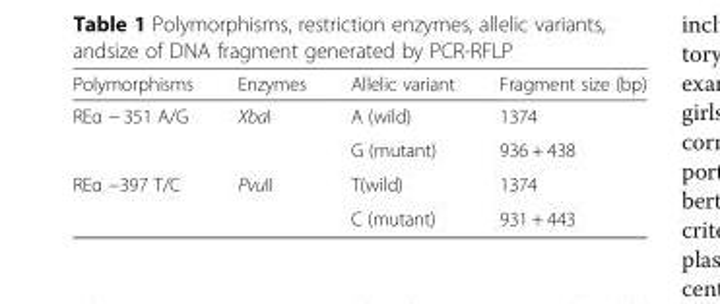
<table><thead><tr><td>Polymorphisms</td><td>Enzymes</td><td>Allelic variant</td><td>Fragment size (bp)</td></tr></thead><tbody><tr><td rowspan="2">REα − 351 A/G</td><td rowspan="2">XbaI</td><td>A (wild)</td><td>1374</td></tr><tr><td>G (mutant)</td><td>936 + 438</td></tr><tr><td rowspan="2">REα −397 T/C</td><td rowspan="2">PvuII</td><td>T(wild)</td><td>1374</td></tr><tr><td>C (mutant)</td><td>931 + 443</td></tr></tbody></table>